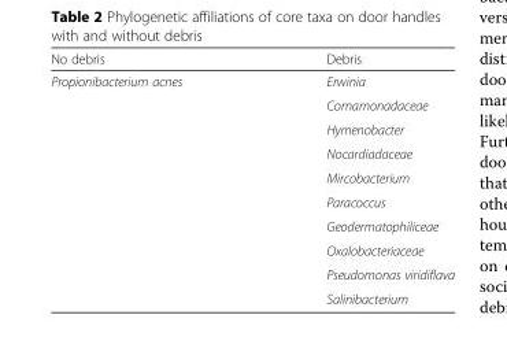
<table><thead><tr><td>No debris</td><td>Debris</td></tr></thead><tbody><tr><td rowspan="10">Propionibacterium acnes</td><td>Erwinia</td></tr><tr><td>Comamonadaceae</td></tr><tr><td>Hymenobacter</td></tr><tr><td>Nocardiadaceae</td></tr><tr><td>Mircobacterium</td></tr><tr><td>Paracoccus</td></tr><tr><td>Geodermatophiliceae</td></tr><tr><td>Oxalobacteriaceae</td></tr><tr><td>Pseudomonas viridiflava</td></tr><tr><td>Salinibacterium</td></tr></tbody></table>